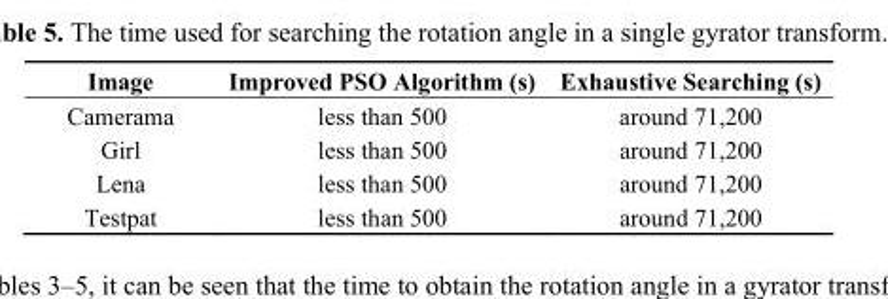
<table><thead><tr><td>Image</td><td>Improved PSO Algorithm (s)</td><td>Exhaustive Searching (s)</td></tr></thead><tbody><tr><td>Camerama</td><td>less than 500</td><td>around 71,200</td></tr><tr><td>Girl</td><td>less than 500</td><td>around 71,200</td></tr><tr><td>Lena</td><td>less than 500</td><td>around 71,200</td></tr><tr><td>Testpat</td><td>less than 500</td><td>around 71,200</td></tr></tbody></table>